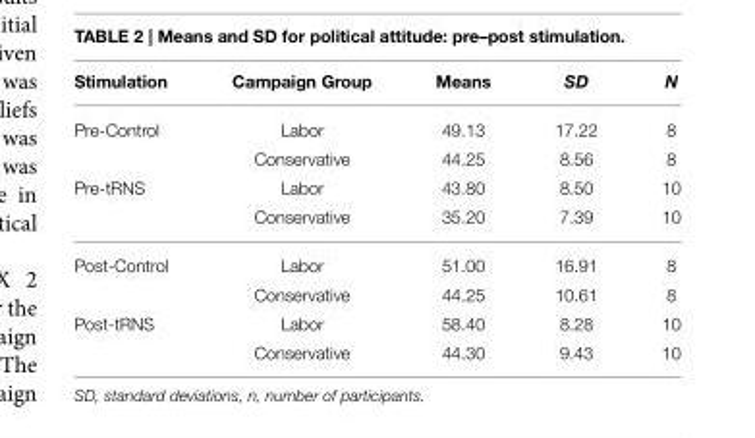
<table><thead><tr><td>Stimulation</td><td>Campaign Group</td><td>Means</td><td>SD</td><td>N</td></tr></thead><tbody><tr><td rowspan="2">Pre-Control</td><td>Labor</td><td>49.13</td><td>17.22</td><td>8</td></tr><tr><td>Conservative</td><td>44.25</td><td>8.56</td><td>8</td></tr><tr><td rowspan="2">Pre-tRNS</td><td>Labor</td><td>43.80</td><td>8.50</td><td>10</td></tr><tr><td>Conservative</td><td>35.20</td><td>7.39</td><td>10</td></tr><tr><td rowspan="2">Post-Control</td><td>Labor</td><td>51.00</td><td>16.91</td><td>8</td></tr><tr><td>Conservative</td><td>44.25</td><td>10.61</td><td>8</td></tr><tr><td rowspan="2">Post-tRNS</td><td>Labor</td><td>58.40</td><td>8.28</td><td>10</td></tr><tr><td>Conservative</td><td>44.30</td><td>9.43</td><td>10</td></tr></tbody></table>